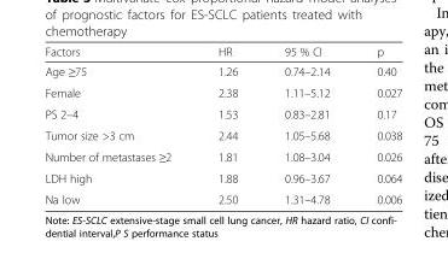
<table><thead><tr><td>Factors</td><td>HR</td><td>95 % CI</td><td>p</td></tr></thead><tbody><tr><td>Age ≥75</td><td>1.26</td><td>0.74–2.14</td><td>0.40</td></tr><tr><td>Female</td><td>2.38</td><td>1.11–5.12</td><td>0.027</td></tr><tr><td>PS 2–4</td><td>1.53</td><td>0.83–2.81</td><td>0.17</td></tr><tr><td>Tumor size &gt;3 cm</td><td>2.44</td><td>1.05–5.68</td><td>0.038</td></tr><tr><td>Number of metastases ≥2</td><td>1.81</td><td>1.08–3.04</td><td>0.026</td></tr><tr><td>LDH high</td><td>1.88</td><td>0.96–3.67</td><td>0.064</td></tr><tr><td>Na low</td><td>2.50</td><td>1.31–4.78</td><td>0.006</td></tr></tbody></table>